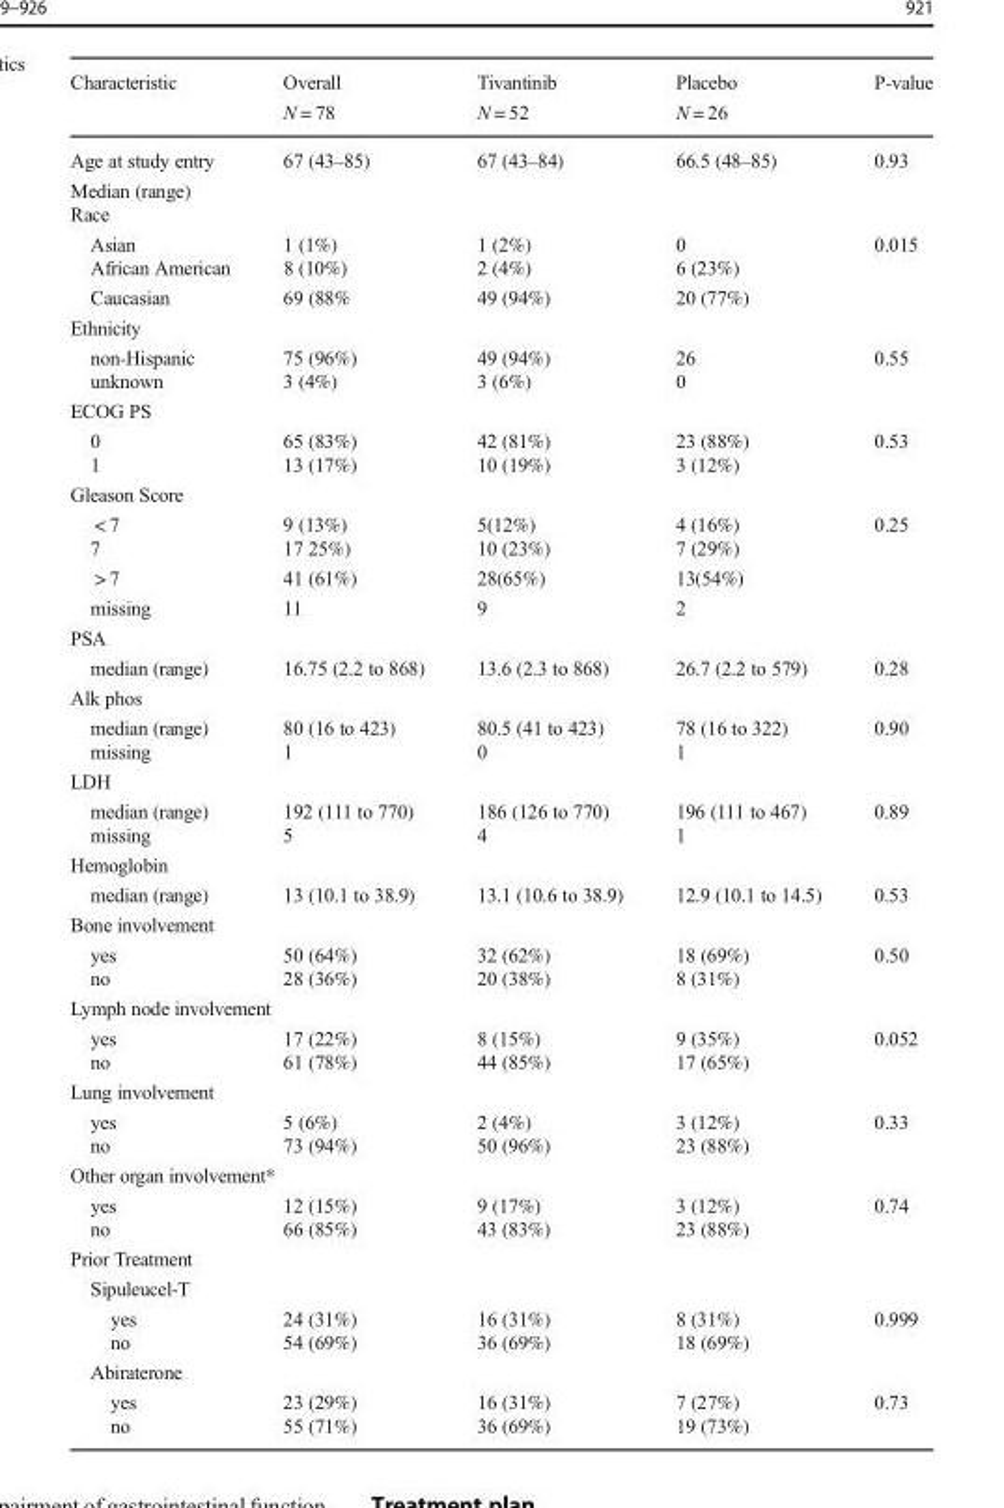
<table><thead><tr><td>Characteristic</td><td>Overall N = 78</td><td>Tivantinib N = 52</td><td>Placebo N = 26</td><td>P-value</td></tr></thead><tbody><tr><td>Age at study entry Median (range)</td><td>67 (43–85)</td><td>67 (43–84)</td><td>66.5 (48–85)</td><td>0.93</td></tr><tr><td colspan="5">Race</td></tr><tr><td>Asian</td><td>1 (1%)</td><td>1 (2%)</td><td>0</td><td rowspan="3">0.015</td></tr><tr><td>African American</td><td>8 (10%)</td><td>2 (4%)</td><td>6 (23%)</td></tr><tr><td>Caucasian</td><td>69 (88%</td><td>49 (94%)</td><td>20 (77%)</td></tr><tr><td colspan="5">Ethnicity</td></tr><tr><td>non-Hispanic</td><td>75 (96%)</td><td>49 (94%)</td><td>26</td><td rowspan="2">0.55</td></tr><tr><td>unknown</td><td>3 (4%)</td><td>3 (6%)</td><td>0</td></tr><tr><td colspan="5">ECOG PS</td></tr><tr><td>0</td><td>65 (83%)</td><td>42 (81%)</td><td>23 (88%)</td><td rowspan="2">0.53</td></tr><tr><td>1</td><td>13 (17%)</td><td>10 (19%)</td><td>3 (12%)</td></tr><tr><td colspan="5">Gleason Score</td></tr><tr><td>&lt; 7</td><td>9 (13%)</td><td>5(12%)</td><td>4 (16%)</td><td rowspan="4">0.25</td></tr><tr><td>7</td><td>17 25%)</td><td>10 (23%)</td><td>7 (29%)</td></tr><tr><td>&gt; 7</td><td>41 (61%)</td><td>28(65%)</td><td>13(54%)</td></tr><tr><td>missing</td><td>11</td><td>9</td><td>2</td></tr><tr><td colspan="5">PSA</td></tr><tr><td>median (range)</td><td>16.75 (2.2 to 868)</td><td>13.6 (2.3 to 868)</td><td>26.7 (2.2 to 579)</td><td>0.28</td></tr><tr><td colspan="5">Alk phos</td></tr><tr><td>median (range)</td><td>80 (16 to 423)</td><td>80.5 (41 to 423)</td><td>78 (16 to 322)</td><td rowspan="2">0.90</td></tr><tr><td>missing</td><td>1</td><td>0</td><td>1</td></tr><tr><td colspan="5">LDH</td></tr><tr><td>median (range)</td><td>192 (111 to 770)</td><td>186 (126 to 770)</td><td>196 (111 to 467)</td><td rowspan="2">0.89</td></tr><tr><td>missing</td><td>5</td><td>4</td><td>1</td></tr><tr><td colspan="5">Hemoglobin</td></tr><tr><td>median (range)</td><td>13 (10.1 to 38.9)</td><td>13.1 (10.6 to 38.9)</td><td>12.9 (10.1 to 14.5)</td><td>0.53</td></tr><tr><td colspan="5">Bone involvement</td></tr><tr><td>yes</td><td>50 (64%)</td><td>32 (62%)</td><td>18 (69%)</td><td rowspan="2">0.50</td></tr><tr><td>no</td><td>28 (36%)</td><td>20 (38%)</td><td>8 (31%)</td></tr><tr><td colspan="5">Lymph node involvement</td></tr><tr><td>yes</td><td>17 (22%)</td><td>8 (15%)</td><td>9 (35%)</td><td rowspan="2">0.052</td></tr><tr><td>no</td><td>61 (78%)</td><td>44 (85%)</td><td>17 (65%)</td></tr><tr><td colspan="5">Lung involvement</td></tr><tr><td>yes</td><td>5 (6%)</td><td>2 (4%)</td><td>3 (12%)</td><td rowspan="2">0.33</td></tr><tr><td>no</td><td>73 (94%)</td><td>50 (96%)</td><td>23 (88%)</td></tr><tr><td colspan="5">Other organ involvement*</td></tr><tr><td>yes</td><td>12 (15%)</td><td>9 (17%)</td><td>3 (12%)</td><td rowspan="2">0.74</td></tr><tr><td>no</td><td>66 (85%)</td><td>43 (83%)</td><td>23 (88%)</td></tr><tr><td colspan="5">Prior Treatment</td></tr><tr><td colspan="5">Sipuleucel-T</td></tr><tr><td>yes</td><td>24 (31%)</td><td>16 (31%)</td><td>8 (31%)</td><td rowspan="2">0.999</td></tr><tr><td>no</td><td>54 (69%)</td><td>36 (69%)</td><td>18 (69%)</td></tr><tr><td colspan="5">Abiraterone</td></tr><tr><td>yes</td><td>23 (29%)</td><td>16 (31%)</td><td>7 (27%)</td><td rowspan="2">0.73</td></tr><tr><td>no</td><td>55 (71%)</td><td>36 (69%)</td><td>19 (73%)</td></tr></tbody></table>